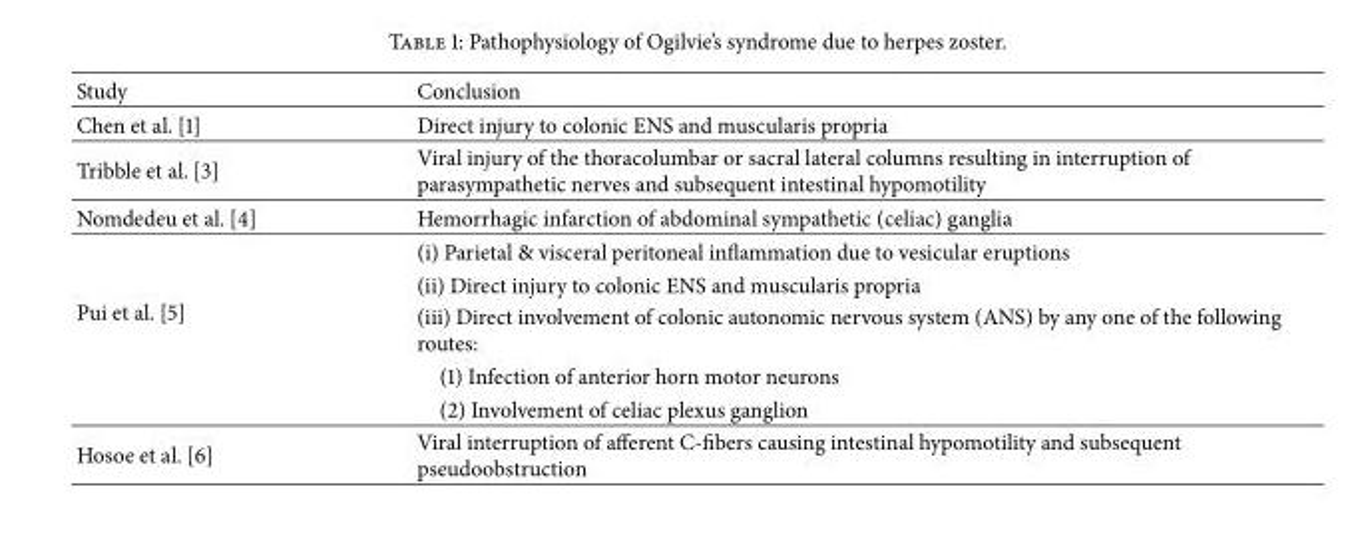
<table><thead><tr><td>Study</td><td>Conclusion</td></tr></thead><tbody><tr><td>Chen et al. [1]</td><td>Direct injury to colonic ENS and muscularis propria</td></tr><tr><td>Tribble et al. [3]</td><td>Viral injury of the thoracolumbar or sacral lateral columns resulting in interruption of parasympathetic nerves and subsequent intestinal hypomotility</td></tr><tr><td>Nomdedeu et al. [4]</td><td>Hemorrhagic infarction of abdominal sympathetic (celiac) ganglia</td></tr><tr><td rowspan="5">Pui et al. [5]</td><td>(i) Parietal &amp; visceral peritoneal inflammation due to vesicular eruptions</td></tr><tr><td>(ii) Direct injury to colonic ENS and muscularis propria</td></tr><tr><td>(iii) Direct involvement of colonic autonomic nervous system (ANS) by any one of the following routes:</td></tr><tr><td>(1) Infection of anterior horn motor neurons</td></tr><tr><td>(2) Involvement of celiac plexus ganglion</td></tr><tr><td>Hosoe et al. [6]</td><td>Viral interruption of afferent C-fibers causing intestinal hypomotility and subsequent pseudoobstruction</td></tr></tbody></table>